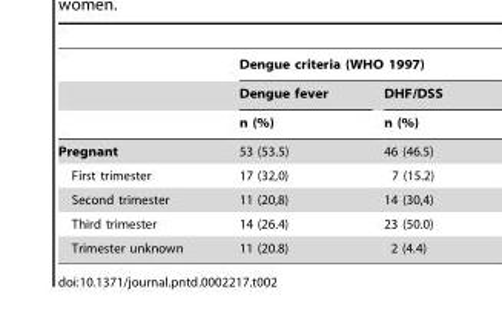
<table><thead><tr><td rowspan="3"></td><td colspan="2">Dengue criteria (WHO 1997)</td></tr><tr><td rowspan="2">Dengue fever n (%)</td><td rowspan="2">DHF/DSS n (%)</td></tr><tr></tr></thead><tbody><tr><td>Pregnant</td><td>53 (53.5)</td><td>46 (46.5)</td></tr><tr><td>First trimester</td><td>17 (32,0)</td><td>7 (15.2)</td></tr><tr><td>Second trimester</td><td>11 (20,8)</td><td>14 (30,4)</td></tr><tr><td>Third trimester</td><td>14 (26.4)</td><td>23 (50.0)</td></tr><tr><td>Trimester unknown</td><td>11 (20.8)</td><td>2 (4.4)</td></tr></tbody></table>